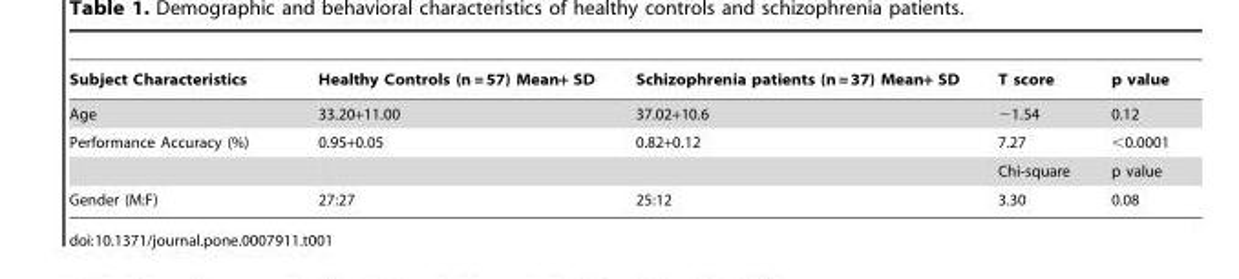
<table><thead><tr><td>Subject Characteristics</td><td>Healthy Controls (n = 57) Mean+ SD</td><td>Schizophrenia patients (n = 37) Mean+ SD</td><td>T score</td><td>p value</td></tr></thead><tbody><tr><td>Age</td><td>33.20+11.00</td><td>37.02+10.6</td><td>−1.54</td><td>0.12</td></tr><tr><td rowspan="2">Performance Accuracy (%)</td><td>0.95+0.05</td><td>0.82+0.12</td><td>7.27</td><td>&lt;0.0001</td></tr><tr><td></td><td></td><td>Chi-square</td><td>p value</td></tr><tr><td>Gender (M:F)</td><td>27:27</td><td>25:12</td><td>3.30</td><td>0.08</td></tr></tbody></table>